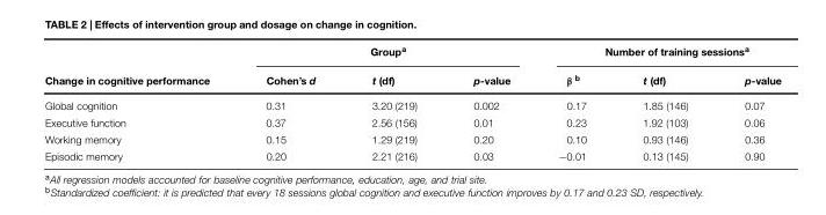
<table><thead><tr><td rowspan="2">Change in cognitive performance</td><td colspan="3">Group<sup>a</sup></td><td colspan="3">Number of training sessions<sup>a</sup></td></tr><tr><td>Cohen’s d</td><td>t (df)</td><td>p-value</td><td>β <sup>b</sup></td><td>t (df)</td><td>p-value</td></tr></thead><tbody><tr><td>Global cognition</td><td>0.31</td><td>3.20 (219)</td><td>0.002</td><td>0.17</td><td>1.85 (146)</td><td>0.07</td></tr><tr><td>Executive function</td><td>0.37</td><td>2.56 (156)</td><td>0.01</td><td>0.23</td><td>1.92 (103)</td><td>0.06</td></tr><tr><td>Working memory</td><td>0.15</td><td>1.29 (219)</td><td>0.20</td><td>0.10</td><td>0.93 (146)</td><td>0.36</td></tr><tr><td>Episodic memory</td><td>0.20</td><td>2.21 (216)</td><td>0.03</td><td>−0.01</td><td>0.13 (145)</td><td>0.90</td></tr></tbody></table>